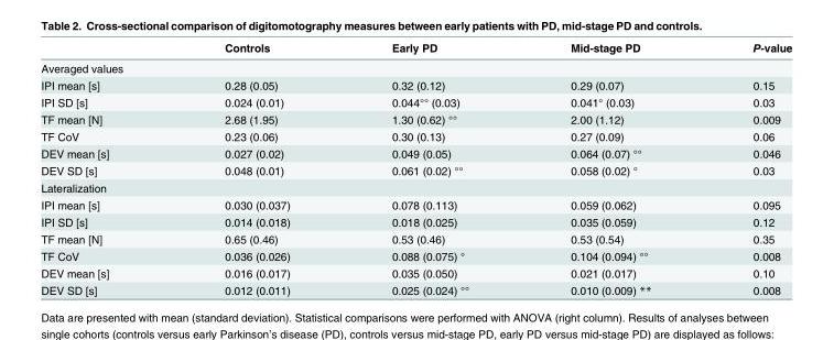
<table><thead><tr><td></td><td>Controls</td><td>Early PD</td><td>Mid-stage PD</td><td>P-value</td></tr></thead><tbody><tr><td colspan="5">Averaged values</td></tr><tr><td>IPI mean [s]</td><td>0.28 (0.05)</td><td>0.32 (0.12)</td><td>0.29 (0.07)</td><td>0.15</td></tr><tr><td>IPI SD [s]</td><td>0.024 (0.01)</td><td>0.044°° (0.03)</td><td>0.041° (0.03)</td><td>0.03</td></tr><tr><td>TF mean [N]</td><td>2.68 (1.95)</td><td>1.30 (0.62) °°</td><td>2.00 (1.12)</td><td>0.009</td></tr><tr><td>TF CoV</td><td>0.23 (0.06)</td><td>0.30 (0.13)</td><td>0.27 (0.09)</td><td>0.06</td></tr><tr><td>DEV mean [s]</td><td>0.027 (0.02)</td><td>0.049 (0.05)</td><td>0.064 (0.07) °°</td><td>0.046</td></tr><tr><td>DEV SD [s]</td><td>0.048 (0.01)</td><td>0.061 (0.02) °°</td><td>0.058 (0.02) °</td><td>0.03</td></tr><tr><td colspan="5">Lateralization</td></tr><tr><td>IPI mean [s]</td><td>0.030 (0.037)</td><td>0.078 (0.113)</td><td>0.059 (0.062)</td><td>0.095</td></tr><tr><td>IPI SD [s]</td><td>0.014 (0.018)</td><td>0.018 (0.025)</td><td>0.035 (0.059)</td><td>0.12</td></tr><tr><td>TF mean [N]</td><td>0.65 (0.46)</td><td>0.53 (0.46)</td><td>0.53 (0.54)</td><td>0.35</td></tr><tr><td>TF CoV</td><td>0.036 (0.026)</td><td>0.088 (0.075) °</td><td>0.104 (0.094) °°</td><td>0.008</td></tr><tr><td>DEV mean [s]</td><td>0.016 (0.017)</td><td>0.035 (0.050)</td><td>0.021 (0.017)</td><td>0.10</td></tr><tr><td>DEV SD [s]</td><td>0.012 (0.011)</td><td>0.025 (0.024) °°</td><td>0.010 (0.009) **</td><td>0.008</td></tr></tbody></table>